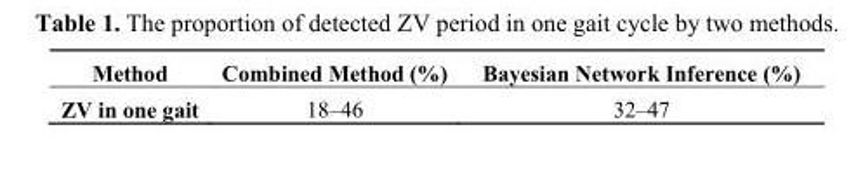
<table><thead><tr><td>Method</td><td>Combined Method (%)</td><td>Bayesian Network Inference (%)</td></tr></thead><tbody><tr><td>ZV in one gait</td><td>18–46</td><td>32–47</td></tr></tbody></table>